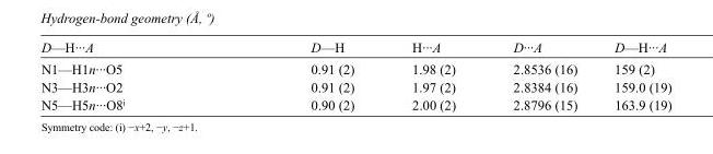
<table><tbody><tr><td>D—H···A</td><td>D—H</td><td>H···A</td><td>D···A</td><td>D—H···A</td></tr><tr><td>N1—H1n···O5</td><td>0.91 (2)</td><td>1.98 (2)</td><td>2.8536 (16)</td><td>159 (2)</td></tr><tr><td>N3—H3n···O2</td><td>0.91 (2)</td><td>1.97 (2)</td><td>2.8384 (16)</td><td>159.0 (19)</td></tr><tr><td>N5—H5n···O8<sup>i</sup></td><td>0.90 (2)</td><td>2.00 (2)</td><td>2.8796 (15)</td><td>163.9 (19)</td></tr></tbody></table>